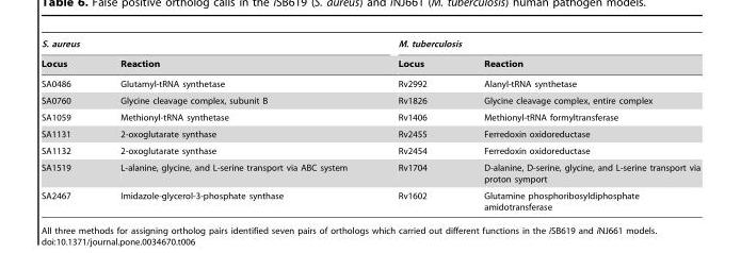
<table><thead><tr><td colspan="2">S. aureus</td><td colspan="2">M. tuberculosis</td></tr><tr><td>Locus</td><td>Reaction</td><td>Locus</td><td>Reaction</td></tr></thead><tbody><tr><td>SA0486</td><td>Glutamyl-tRNA synthetase</td><td>Rv2992</td><td>Alanyl-tRNA synthetase</td></tr><tr><td>SA0760</td><td>Glycine cleavage complex, subunit B</td><td>Rv1826</td><td>Glycine cleavage complex, entire complex</td></tr><tr><td>SA1059</td><td>Methionyl-tRNA synthetase</td><td>Rv1406</td><td>Methionyl-tRNA formyltransferase</td></tr><tr><td>SA1131</td><td>2-oxoglutarate synthase</td><td>Rv2455</td><td>Ferredoxin oxidoreductase</td></tr><tr><td>SA1132</td><td>2-oxoglutarate synthase</td><td>Rv2454</td><td>Ferredoxin oxidoreductase</td></tr><tr><td>SA1519</td><td>L-alanine, glycine, and L-serine transport via ABC system</td><td>Rv1704</td><td>D-alanine, D-serine, glycine, and L-serine transport via proton symport</td></tr><tr><td>SA2467</td><td>Imidazole-glycerol-3-phosphate synthase</td><td>Rv1602</td><td>Glutamine phosphoribosyldiphosphate amidotransferase</td></tr></tbody></table>